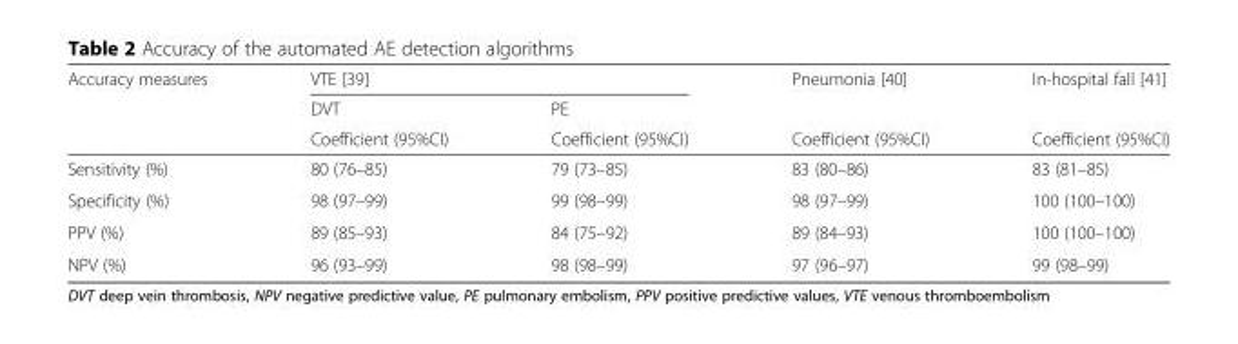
<table><thead><tr><td rowspan="3">Accuracy measures</td><td colspan="2">VTE [39]</td><td rowspan="3">Pneumonia [40] Coefficient (95%CI)</td><td rowspan="3">In-hospital fall [41] Coefficient (95%CI)</td></tr><tr><td rowspan="2">DVT Coefficient (95%CI)</td><td rowspan="2">PE Coefficient (95%CI)</td></tr><tr></tr></thead><tbody><tr><td>Sensitivity (%)</td><td>80 (76–85)</td><td>79 (73–85)</td><td>83 (80–86)</td><td>83 (81–85)</td></tr><tr><td>Specificity (%)</td><td>98 (97–99)</td><td>99 (98–99)</td><td>98 (97–99)</td><td>100 (100–100)</td></tr><tr><td>PPV (%)</td><td>89 (85–93)</td><td>84 (75–92)</td><td>89 (84–93)</td><td>100 (100–100)</td></tr><tr><td>NPV (%)</td><td>96 (93–99)</td><td>98 (98–99)</td><td>97 (96–97)</td><td>99 (98–99)</td></tr></tbody></table>